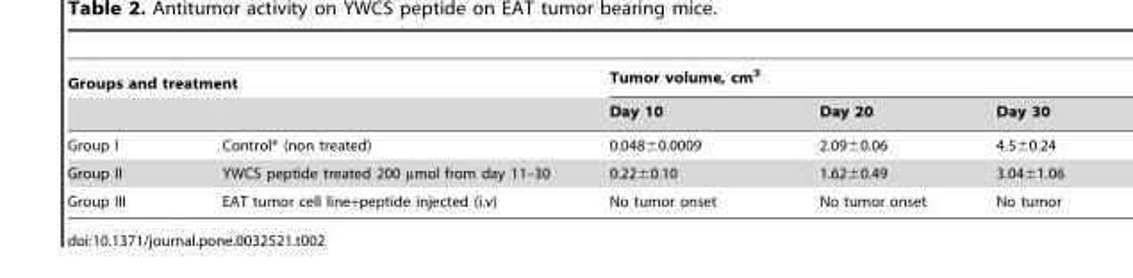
<table><thead><tr><td colspan="2">Groups and treatment</td><td colspan="3">Tumor volume, cm<sup>3</sup></td></tr><tr><td></td><td></td><td>Day 10</td><td>Day 20</td><td>Day 30</td></tr></thead><tbody><tr><td>Group I</td><td>Control* (non treated)</td><td>0.048±0.0009</td><td>2.09±0.06</td><td>4.5±0.24</td></tr><tr><td>Group II</td><td>YWCS peptide treated 200 µmol from day 11–30</td><td>0.22±0.10</td><td>1.62±0.49</td><td>3.04±1.06</td></tr><tr><td>Group III</td><td>EAT tumor cell line+peptide injected (i.v)</td><td>No tumor onset</td><td>No tumor onset</td><td>No tumor</td></tr></tbody></table>